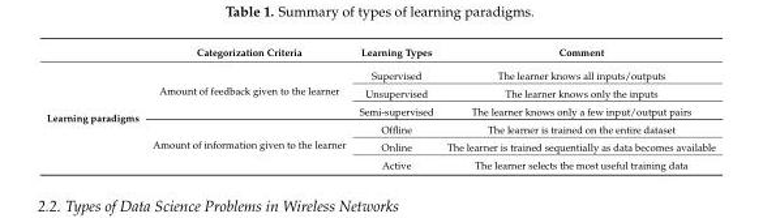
<table><thead><tr><td></td><td>Categorization Criteria</td><td>Learning Types</td><td>Comment</td></tr></thead><tbody><tr><td rowspan="6">Learning paradigms</td><td rowspan="3">Amount of feedback given to the learner</td><td>Supervised</td><td>The learner knows all inputs/outputs</td></tr><tr><td>Unsupervised</td><td>The learner knows only the inputs</td></tr><tr><td>Semi-supervised</td><td>The learner knows only a few input/output pairs</td></tr><tr><td rowspan="3">Amount of information given to the learner</td><td>Offline</td><td>The learner is trained on the entire dataset</td></tr><tr><td>Online</td><td>The learner is trained sequentially as data becomes available</td></tr><tr><td>Active</td><td>The learner selects the most useful training data</td></tr></tbody></table>